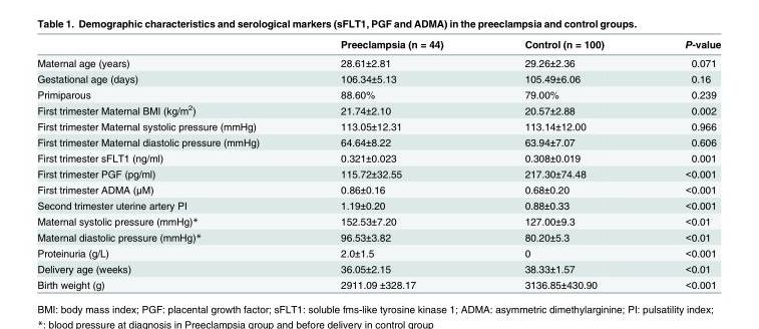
<table><thead><tr><td></td><td>Preeclampsia (n = 44)</td><td>Control (n = 100)</td><td>P-value</td></tr></thead><tbody><tr><td>Maternal age (years)</td><td>28.61±2.81</td><td>29.26±2.36</td><td>0.071</td></tr><tr><td>Gestational age (days)</td><td>106.34±5.13</td><td>105.49±6.06</td><td>0.16</td></tr><tr><td>Primiparous</td><td>88.60%</td><td>79.00%</td><td>0.239</td></tr><tr><td>First trimester Maternal BMI (kg/m<sup>2</sup>)</td><td>21.74±2.10</td><td>20.57±2.88</td><td>0.002</td></tr><tr><td>First trimester Maternal systolic pressure (mmHg)</td><td>113.05±12.31</td><td>113.14±12.00</td><td>0.966</td></tr><tr><td>First trimester Maternal diastolic pressure (mmHg)</td><td>64.64±8.22</td><td>63.94±7.07</td><td>0.606</td></tr><tr><td>First trimester sFLT1 (ng/ml)</td><td>0.321±0.023</td><td>0.308±0.019</td><td>0.001</td></tr><tr><td>First trimester PGF (pg/ml)</td><td>115.72±32.55</td><td>217.30±74.48</td><td>&lt;0.001</td></tr><tr><td>First trimester ADMA (μM)</td><td>0.86±0.16</td><td>0.68±0.20</td><td>&lt;0.001</td></tr><tr><td>Second trimester uterine artery PI</td><td>1.19±0.20</td><td>0.88±0.33</td><td>&lt;0.001</td></tr><tr><td>Maternal systolic pressure (mmHg)*</td><td>152.53±7.20</td><td>127.00±9.3</td><td>&lt;0.01</td></tr><tr><td>Maternal diastolic pressure (mmHg)*</td><td>96.53±3.82</td><td>80.20±5.3</td><td>&lt;0.01</td></tr><tr><td>Proteinuria (g/L)</td><td>2.0±1.5</td><td>0</td><td>&lt;0.001</td></tr><tr><td>Delivery age (weeks)</td><td>36.05±2.15</td><td>38.33±1.57</td><td>&lt;0.01</td></tr><tr><td>Birth weight (g)</td><td>2911.09 ±328.17</td><td>3136.85±430.90</td><td>&lt;0.001</td></tr></tbody></table>